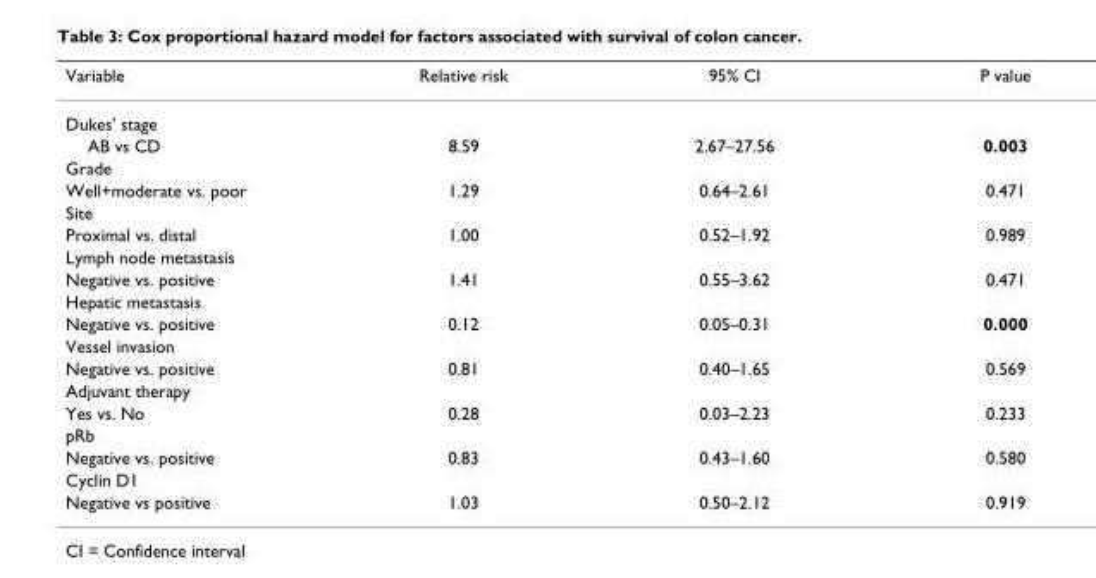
<table><thead><tr><td>Variable</td><td>Relative risk</td><td>95% CI</td><td>P value</td></tr></thead><tbody><tr><td colspan="4">Dukes&#x27; stage</td></tr><tr><td>AB vs CD</td><td>8.59</td><td>2.67–27.56</td><td>0.003</td></tr><tr><td colspan="4">Grade</td></tr><tr><td>Well+moderate vs. poor</td><td>1.29</td><td>0.64–2.61</td><td>0.471</td></tr><tr><td colspan="4">Site</td></tr><tr><td>Proximal vs. distal</td><td>1.00</td><td>0.52–1.92</td><td>0.989</td></tr><tr><td colspan="4">Lymph node metastasis</td></tr><tr><td>Negative vs. positive</td><td>1.41</td><td>0.55–3.62</td><td>0.471</td></tr><tr><td colspan="4">Hepatic metastasis</td></tr><tr><td>Negative vs. positive</td><td>0.12</td><td>0.05–0.31</td><td>0.000</td></tr><tr><td colspan="4">Vessel invasion</td></tr><tr><td>Negative vs. positive</td><td>0.81</td><td>0.40–1.65</td><td>0.569</td></tr><tr><td colspan="4">Adjuvant therapy</td></tr><tr><td>Yes vs. No</td><td>0.28</td><td>0.03–2.23</td><td>0.233</td></tr><tr><td colspan="4">pRb</td></tr><tr><td>Negative vs. positive</td><td>0.83</td><td>0.43–1.60</td><td>0.580</td></tr><tr><td colspan="4">Cyclin D1</td></tr><tr><td>Negative vs positive</td><td>1.03</td><td>0.50–2.12</td><td>0.919</td></tr></tbody></table>